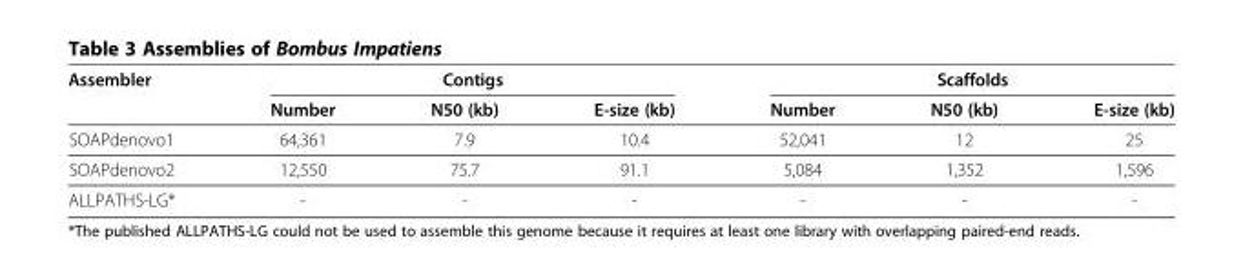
<table><thead><tr><td rowspan="2">Assembler</td><td colspan="3">Contigs</td><td colspan="3">Scaffolds</td></tr><tr><td>Number</td><td>N50 (kb)</td><td>E-size (kb)</td><td>Number</td><td>N50 (kb)</td><td>E-size (kb)</td></tr></thead><tbody><tr><td>SOAPdenovo1</td><td>64,361</td><td>7.9</td><td>10.4</td><td>52,041</td><td>12</td><td>25</td></tr><tr><td>SOAPdenovo2</td><td>12,550</td><td>75.7</td><td>91.1</td><td>5,084</td><td>1,352</td><td>1,596</td></tr><tr><td>ALLPATHS-LG*</td><td>-</td><td>-</td><td>-</td><td>-</td><td>-</td><td>-</td></tr></tbody></table>